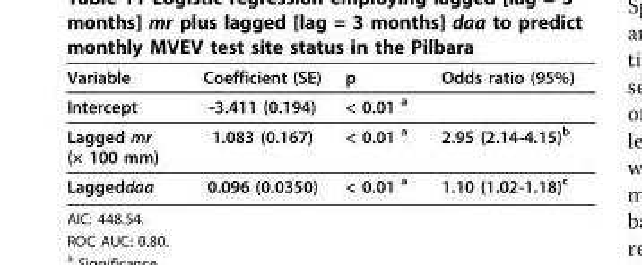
<table><thead><tr><td>Variable</td><td>Coefficient (SE)</td><td>p</td><td>Odds ratio (95%)</td></tr></thead><tbody><tr><td>Intercept</td><td>-3.411 (0.194)</td><td>&lt; 0.01 <sup>a</sup></td><td></td></tr><tr><td>Lagged mr (× 100 mm)</td><td>1.083 (0.167)</td><td>&lt; 0.01 <sup>a</sup></td><td>2.95 (2.14-4.15)<sup>b</sup></td></tr><tr><td>Laggeddaa</td><td>0.096 (0.0350)</td><td>&lt; 0.01 <sup>a</sup></td><td>1.10 (1.02-1.18)<sup>c</sup></td></tr></tbody></table>